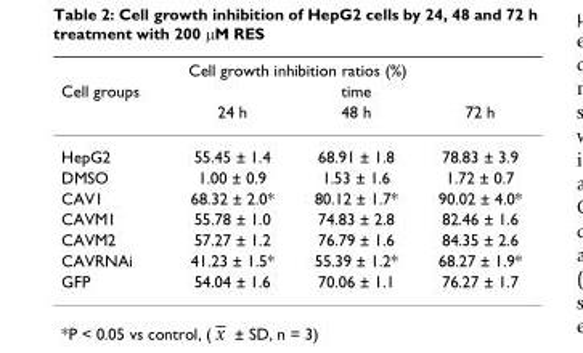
<table><thead><tr><td colspan="4">Cell growth inhibition ratios (%)</td></tr><tr><td rowspan="2">Cell groups</td><td colspan="3">time</td></tr><tr><td>24 h</td><td>48 h</td><td>72 h</td></tr></thead><tbody><tr><td>HepG2</td><td>55.45 ± 1.4</td><td>68.91 ± 1.8</td><td>78.83 ± 3.9</td></tr><tr><td>DMSO</td><td>1.00 ± 0.9</td><td>1.53 ± 1.6</td><td>1.72 ± 0.7</td></tr><tr><td>CAV1</td><td>68.32 ± 2.0*</td><td>80.12 ± 1.7*</td><td>90.02 ± 4.0*</td></tr><tr><td>CAVM1</td><td>55.78 ± 1.0</td><td>74.83 ± 2.8</td><td>82.46 ± 1.6</td></tr><tr><td>CAVM2</td><td>57.27 ± 1.2</td><td>76.79 ± 1.6</td><td>84.35 ± 2.6</td></tr><tr><td>CAVRNAi</td><td>41.23 ± 1.5*</td><td>55.39 ± 1.2*</td><td>68.27 ± 1.9*</td></tr><tr><td>GFP</td><td>54.04 ± 1.6</td><td>70.06 ± 1.1</td><td>76.27 ± 1.7</td></tr></tbody></table>